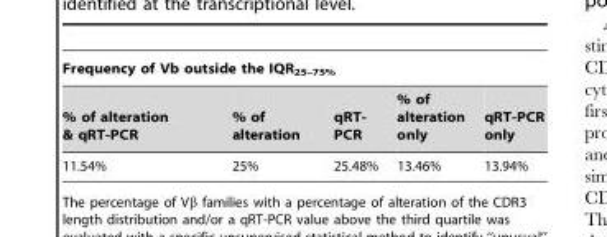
<table><thead><tr><td colspan="5">Frequency of Vb outside the IQR<sub>25–75%</sub></td></tr><tr><td>% of alteration &amp; qRT-PCR</td><td>% of alteration</td><td>qRT- PCR</td><td>% of alteration only</td><td>qRT-PCR only</td></tr></thead><tbody><tr><td>11.54%</td><td>25%</td><td>25.48%</td><td>13.46%</td><td>13.94%</td></tr></tbody></table>